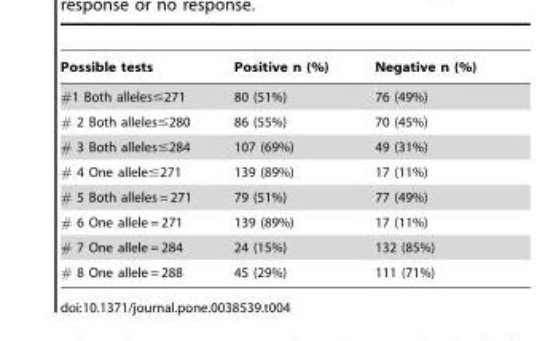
<table><thead><tr><td>Possible tests</td><td>Positive n (%)</td><td>Negative n (%)</td></tr></thead><tbody><tr><td>#1 Both alleles≤271</td><td>80 (51%)</td><td>76 (49%)</td></tr><tr><td># 2 Both alleles≤280</td><td>86 (55%)</td><td>70 (45%)</td></tr><tr><td># 3 Both alleles≤284</td><td>107 (69%)</td><td>49 (31%)</td></tr><tr><td># 4 One allele≤271</td><td>139 (89%)</td><td>17 (11%)</td></tr><tr><td># 5 Both alleles = 271</td><td>79 (51%)</td><td>77 (49%)</td></tr><tr><td># 6 One allele = 271</td><td>139 (89%)</td><td>17 (11%)</td></tr><tr><td># 7 One allele = 284</td><td>24 (15%)</td><td>132 (85%)</td></tr><tr><td># 8 One allele = 288</td><td>45 (29%)</td><td>111 (71%)</td></tr></tbody></table>